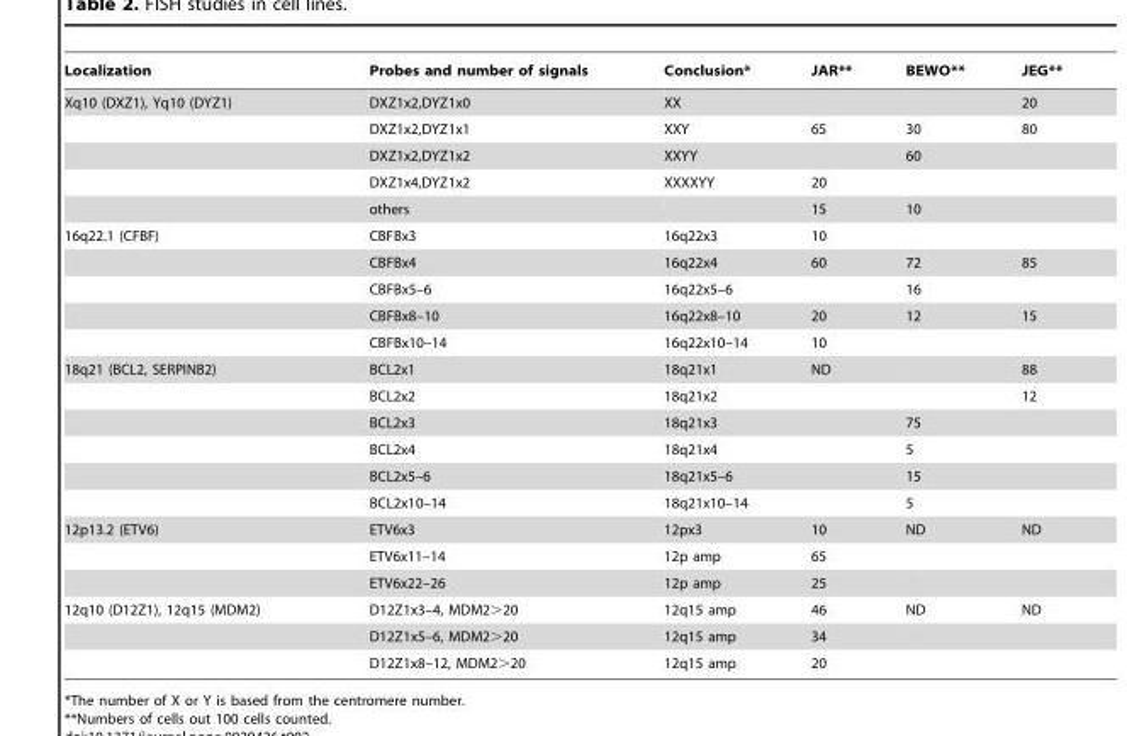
<table><thead><tr><td>Localization</td><td>Probes and number of signals</td><td>Conclusion*</td><td>JAR**</td><td>BEWO**</td><td>JEG**</td></tr></thead><tbody><tr><td rowspan="5">Xq10 (DXZ1), Yq10 (DYZ1)</td><td>DXZ1x2,DYZ1x0</td><td>XX</td><td></td><td></td><td>20</td></tr><tr><td>DXZ1x2,DYZ1x1</td><td>XXY</td><td>65</td><td>30</td><td>80</td></tr><tr><td>DXZ1x2,DYZ1x2</td><td>XXYY</td><td></td><td>60</td><td></td></tr><tr><td>DXZ1x4,DYZ1x2</td><td>XXXXYY</td><td>20</td><td></td><td></td></tr><tr><td>others</td><td></td><td>15</td><td>10</td><td></td></tr><tr><td rowspan="5">16q22.1 (CFBF)</td><td>CBFBx3</td><td>16q22x3</td><td>10</td><td></td><td></td></tr><tr><td>CBFBx4</td><td>16q22x4</td><td>60</td><td>72</td><td>85</td></tr><tr><td>CBFBx5–6</td><td>16q22x5–6</td><td></td><td>16</td><td></td></tr><tr><td>CBFBx8–10</td><td>16q22x8–10</td><td>20</td><td>12</td><td>15</td></tr><tr><td>CBFBx10–14</td><td>16q22x10–14</td><td>10</td><td></td><td></td></tr><tr><td rowspan="6">18q21 (BCL2, SERPINB2)</td><td>BCL2x1</td><td>18q21x1</td><td>ND</td><td></td><td>88</td></tr><tr><td>BCL2x2</td><td>18q21x2</td><td></td><td></td><td>12</td></tr><tr><td>BCL2x3</td><td>18q21x3</td><td></td><td>75</td><td></td></tr><tr><td>BCL2x4</td><td>18q21x4</td><td></td><td>5</td><td></td></tr><tr><td>BCL2x5–6</td><td>18q21x5–6</td><td></td><td>15</td><td></td></tr><tr><td>BCL2x10–14</td><td>18q21x10–14</td><td></td><td>5</td><td></td></tr><tr><td rowspan="3">12p13.2 (ETV6)</td><td>ETV6x3</td><td>12px3</td><td>10</td><td>ND</td><td>ND</td></tr><tr><td>ETV6x11–14</td><td>12p amp</td><td>65</td><td></td><td></td></tr><tr><td>ETV6x22–26</td><td>12p amp</td><td>25</td><td></td><td></td></tr><tr><td rowspan="3">12q10 (D12Z1), 12q15 (MDM2)</td><td>D12Z1x3–4, MDM2&gt;20</td><td>12q15 amp</td><td>46</td><td>ND</td><td>ND</td></tr><tr><td>D12Z1x5–6, MDM2&gt;20</td><td>12q15 amp</td><td>34</td><td></td><td></td></tr><tr><td>D12Z1x8–12, MDM2&gt;20</td><td>12q15 amp</td><td>20</td><td></td><td></td></tr></tbody></table>